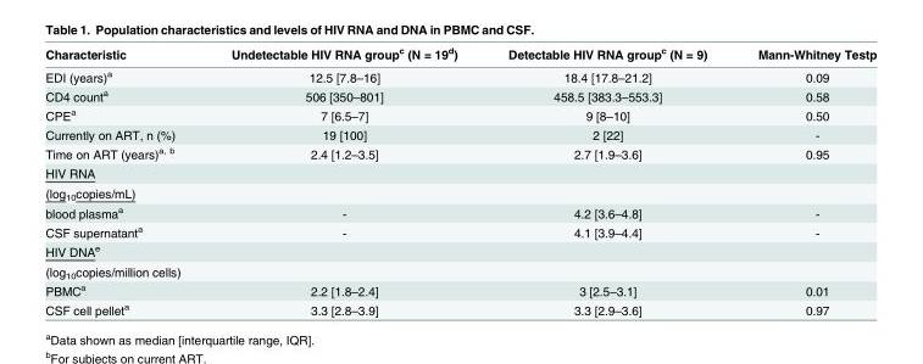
<table><thead><tr><td>Characteristic</td><td>Undetectable HIV RNA group<sup>c</sup> (N = 19<sup>d</sup>)</td><td>Detectable HIV RNA group<sup>c</sup> (N = 9)</td><td>Mann-Whitney Testp</td></tr></thead><tbody><tr><td>EDI (years)<sup>a</sup></td><td>12.5 [7.8–16]</td><td>18.4 [17.8–21.2]</td><td>0.09</td></tr><tr><td>CD4 count<sup>a</sup></td><td>506 [350–801]</td><td>458.5 [383.3–553.3]</td><td>0.58</td></tr><tr><td>CPE<sup>a</sup></td><td>7 [6.5–7]</td><td>9 [8–10]</td><td>0.50</td></tr><tr><td>Currently on ART, n (%)</td><td>19 [100]</td><td>2 [22]</td><td>-</td></tr><tr><td>Time on ART (years)<sup>a, b</sup></td><td>2.4 [1.2–3.5]</td><td>2.7 [1.9–3.6]</td><td>0.95</td></tr><tr><td colspan="4">HIV RNA</td></tr><tr><td colspan="4">(log<sub>10</sub>copies/mL)</td></tr><tr><td>blood plasma<sup>a</sup></td><td>-</td><td>4.2 [3.6–4.8]</td><td>-</td></tr><tr><td>CSF supernatant<sup>a</sup></td><td>-</td><td>4.1 [3.9–4.4]</td><td>-</td></tr><tr><td colspan="4">HIV DNA<sup>e</sup></td></tr><tr><td colspan="4">(log<sub>10</sub>copies/million cells)</td></tr><tr><td>PBMC<sup>a</sup></td><td>2.2 [1.8–2.4]</td><td>3 [2.5–3.1]</td><td>0.01</td></tr><tr><td>CSF cell pellet<sup>a</sup></td><td>3.3 [2.8–3.9]</td><td>3.3 [2.9–3.6]</td><td>0.97</td></tr></tbody></table>